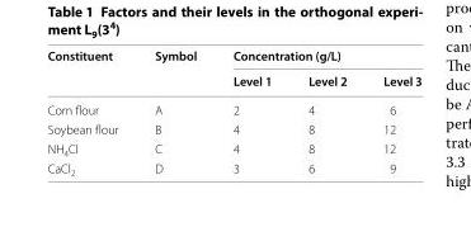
<table><thead><tr><td rowspan="2">Constituent</td><td rowspan="2">Symbol</td><td colspan="3">Concentration (g/L)</td></tr><tr><td>Level 1</td><td>Level 2</td><td>Level 3</td></tr></thead><tbody><tr><td>Corn flour</td><td>A</td><td>2</td><td>4</td><td>6</td></tr><tr><td>Soybean flour</td><td>B</td><td>4</td><td>8</td><td>12</td></tr><tr><td>NH<sub>4</sub>Cl</td><td>C</td><td>4</td><td>8</td><td>12</td></tr><tr><td>CaCl<sub>2</sub></td><td>D</td><td>3</td><td>6</td><td>9</td></tr></tbody></table>